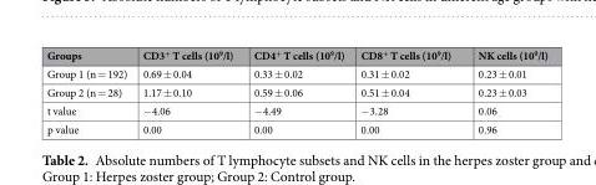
<table><thead><tr><td>Groups</td><td>CD3<sup>+</sup> T cells (10<sup>9</sup>/l)</td><td>CD4<sup>+</sup> T cells (10<sup>9</sup>/l)</td><td>CD8<sup>+</sup> T cells (10<sup>9</sup>/l)</td><td>NK cells (10<sup>9</sup>/l)</td></tr></thead><tbody><tr><td>Group 1 (n = 192)</td><td>0.69 ± 0.04</td><td>0.33 ± 0.02</td><td>0.31 ± 0.02</td><td>0.23 ± 0.01</td></tr><tr><td>Group 2 (n = 28)</td><td>1.17 ± 0.10</td><td>0.59 ± 0.06</td><td>0.51 ± 0.04</td><td>0.23 ± 0.03</td></tr><tr><td>t value</td><td>−4.06</td><td>−4.49</td><td>−3.28</td><td>0.06</td></tr><tr><td>p value</td><td>0.00</td><td>0.00</td><td>0.00</td><td>0.96</td></tr></tbody></table>